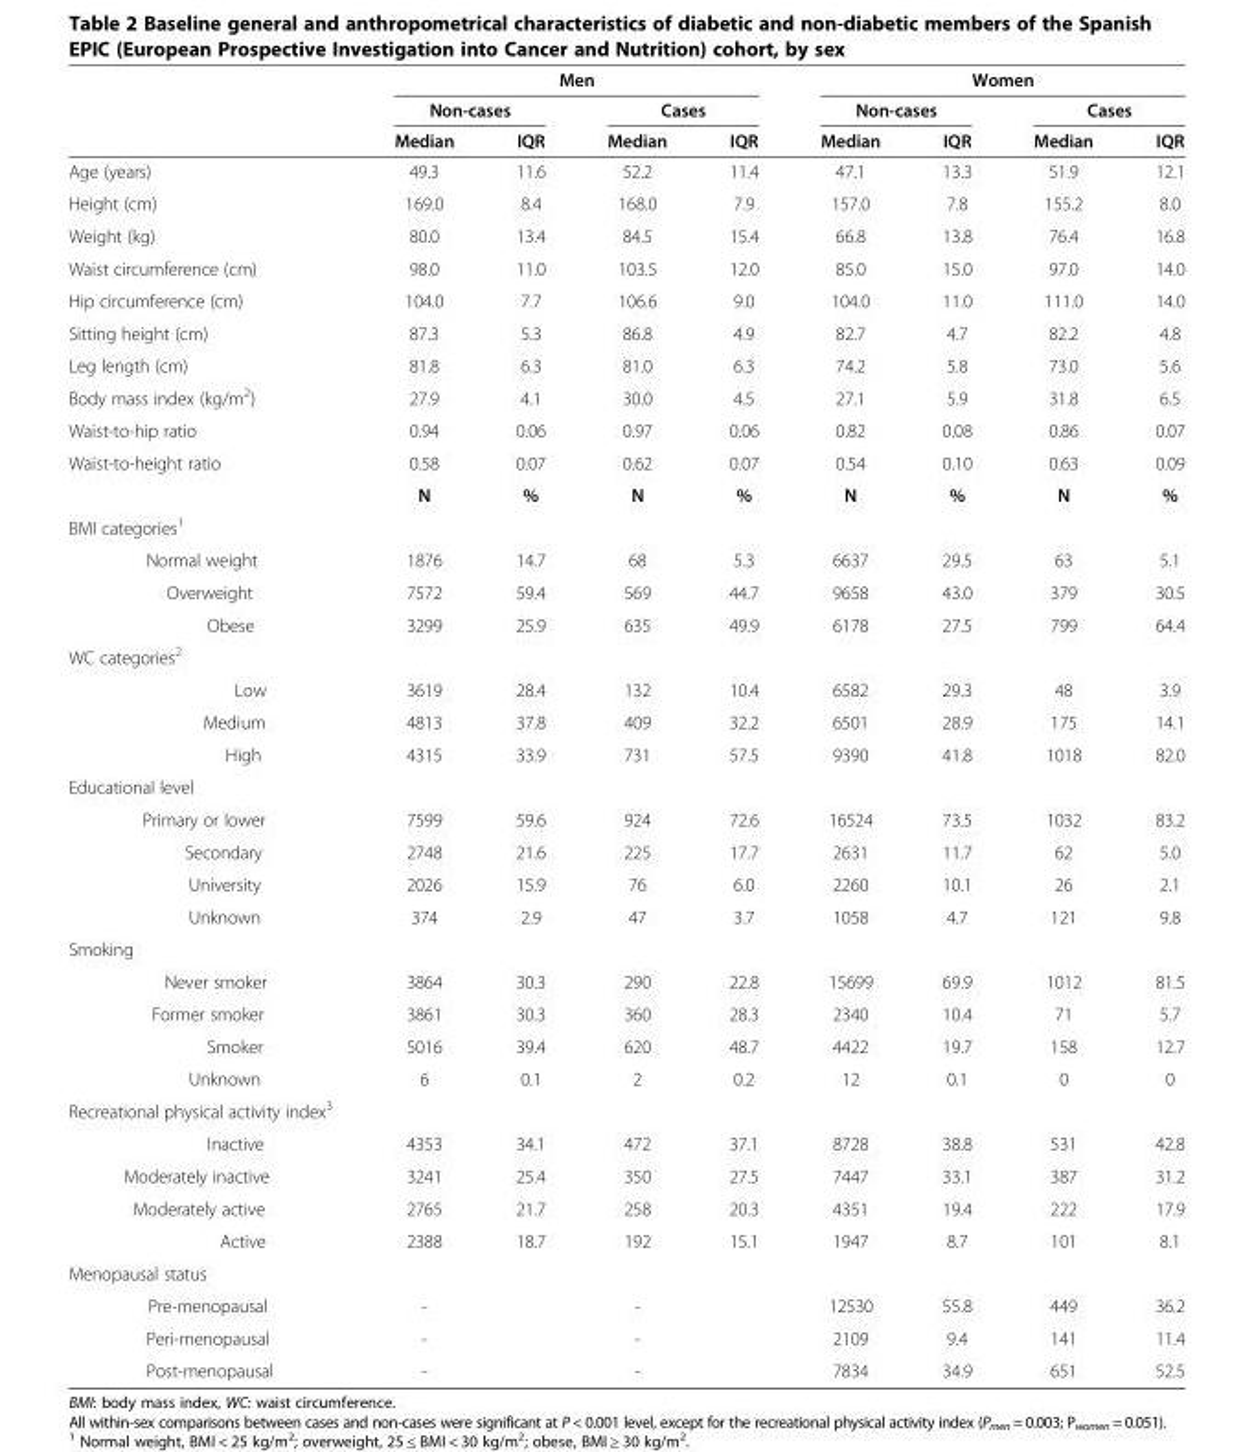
<table><thead><tr><td rowspan="3"></td><td colspan="4">Men</td><td colspan="4">Women</td></tr><tr><td colspan="2">Non-cases</td><td colspan="2">Cases</td><td colspan="2">Non-cases</td><td colspan="2">Cases</td></tr><tr><td>Median</td><td>IQR</td><td>Median</td><td>IQR</td><td>Median</td><td>IQR</td><td>Median</td><td>IQR</td></tr></thead><tbody><tr><td>Age (years)</td><td>49.3</td><td>11.6</td><td>52.2</td><td>11.4</td><td>47.1</td><td>13.3</td><td>51.9</td><td>12.1</td></tr><tr><td>Height (cm)</td><td>169.0</td><td>8.4</td><td>168.0</td><td>7.9</td><td>157.0</td><td>7.8</td><td>155.2</td><td>8.0</td></tr><tr><td>Weight (kg)</td><td>80.0</td><td>13.4</td><td>84.5</td><td>15.4</td><td>66.8</td><td>13.8</td><td>76.4</td><td>16.8</td></tr><tr><td>Waist circumference (cm)</td><td>98.0</td><td>11.0</td><td>103.5</td><td>12.0</td><td>85.0</td><td>15.0</td><td>97.0</td><td>14.0</td></tr><tr><td>Hip circumference (cm)</td><td>104.0</td><td>7.7</td><td>106.6</td><td>9.0</td><td>104.0</td><td>11.0</td><td>111.0</td><td>14.0</td></tr><tr><td>Sitting height (cm)</td><td>87.3</td><td>5.3</td><td>86.8</td><td>4.9</td><td>82.7</td><td>4.7</td><td>82.2</td><td>4.8</td></tr><tr><td>Leg length (cm)</td><td>81.8</td><td>6.3</td><td>81.0</td><td>6.3</td><td>74.2</td><td>5.8</td><td>73.0</td><td>5.6</td></tr><tr><td>Body mass index (kg/m<sup>2</sup>)</td><td>27.9</td><td>4.1</td><td>30.0</td><td>4.5</td><td>27.1</td><td>5.9</td><td>31.8</td><td>6.5</td></tr><tr><td>Waist-to-hip ratio</td><td>0.94</td><td>0.06</td><td>0.97</td><td>0.06</td><td>0.82</td><td>0.08</td><td>0.86</td><td>0.07</td></tr><tr><td rowspan="2">Waist-to-height ratio</td><td>0.58</td><td>0.07</td><td>0.62</td><td>0.07</td><td>0.54</td><td>0.10</td><td>0.63</td><td>0.09</td></tr><tr><td>N</td><td>%</td><td>N</td><td>%</td><td>N</td><td>%</td><td>N</td><td>%</td></tr><tr><td colspan="9">BMI categories<sup>1</sup></td></tr><tr><td>Normal weight</td><td>1876</td><td>14.7</td><td>68</td><td>5.3</td><td>6637</td><td>29.5</td><td>63</td><td>5.1</td></tr><tr><td>Overweight</td><td>7572</td><td>59.4</td><td>569</td><td>44.7</td><td>9658</td><td>43.0</td><td>379</td><td>30.5</td></tr><tr><td>Obese</td><td>3299</td><td>25.9</td><td>635</td><td>49.9</td><td>6178</td><td>27.5</td><td>799</td><td>64.4</td></tr><tr><td colspan="9">WC categories<sup>2</sup></td></tr><tr><td>Low</td><td>3619</td><td>28.4</td><td>132</td><td>10.4</td><td>6582</td><td>29.3</td><td>48</td><td>3.9</td></tr><tr><td>Medium</td><td>4813</td><td>37.8</td><td>409</td><td>32.2</td><td>6501</td><td>28.9</td><td>175</td><td>14.1</td></tr><tr><td>High</td><td>4315</td><td>33.9</td><td>731</td><td>57.5</td><td>9390</td><td>41.8</td><td>1018</td><td>82.0</td></tr><tr><td colspan="9">Educational level</td></tr><tr><td>Primary or lower</td><td>7599</td><td>59.6</td><td>924</td><td>72.6</td><td>16524</td><td>73.5</td><td>1032</td><td>83.2</td></tr><tr><td>Secondary</td><td>2748</td><td>21.6</td><td>225</td><td>17.7</td><td>2631</td><td>11.7</td><td>62</td><td>5.0</td></tr><tr><td>University</td><td>2026</td><td>15.9</td><td>76</td><td>6.0</td><td>2260</td><td>10.1</td><td>26</td><td>2.1</td></tr><tr><td>Unknown</td><td>374</td><td>2.9</td><td>47</td><td>3.7</td><td>1058</td><td>4.7</td><td>121</td><td>9.8</td></tr><tr><td colspan="9">Smoking</td></tr><tr><td>Never smoker</td><td>3864</td><td>30.3</td><td>290</td><td>22.8</td><td>15699</td><td>69.9</td><td>1012</td><td>81.5</td></tr><tr><td>Former smoker</td><td>3861</td><td>30.3</td><td>360</td><td>28.3</td><td>2340</td><td>10.4</td><td>71</td><td>5.7</td></tr><tr><td>Smoker</td><td>5016</td><td>39.4</td><td>620</td><td>48.7</td><td>4422</td><td>19.7</td><td>158</td><td>12.7</td></tr><tr><td>Unknown</td><td>6</td><td>0.1</td><td>2</td><td>0.2</td><td>12</td><td>0.1</td><td>0</td><td>0</td></tr><tr><td colspan="9">Recreational physical activity index<sup>3</sup></td></tr><tr><td>Inactive</td><td>4353</td><td>34.1</td><td>472</td><td>37.1</td><td>8728</td><td>38.8</td><td>531</td><td>42.8</td></tr><tr><td>Moderately inactive</td><td>3241</td><td>25.4</td><td>350</td><td>27.5</td><td>7447</td><td>33.1</td><td>387</td><td>31.2</td></tr><tr><td>Moderately active</td><td>2765</td><td>21.7</td><td>258</td><td>20.3</td><td>4351</td><td>19.4</td><td>222</td><td>17.9</td></tr><tr><td>Active</td><td>2388</td><td>18.7</td><td>192</td><td>15.1</td><td>1947</td><td>8.7</td><td>101</td><td>8.1</td></tr><tr><td colspan="9">Menopausal status</td></tr><tr><td>Pre-menopausal</td><td>-</td><td></td><td>-</td><td></td><td>12530</td><td>55.8</td><td>449</td><td>36.2</td></tr><tr><td>Peri-menopausal</td><td>-</td><td></td><td>-</td><td></td><td>2109</td><td>9.4</td><td>141</td><td>11.4</td></tr><tr><td>Post-menopausal</td><td>-</td><td></td><td>-</td><td></td><td>7834</td><td>34.9</td><td>651</td><td>52.5</td></tr></tbody></table>